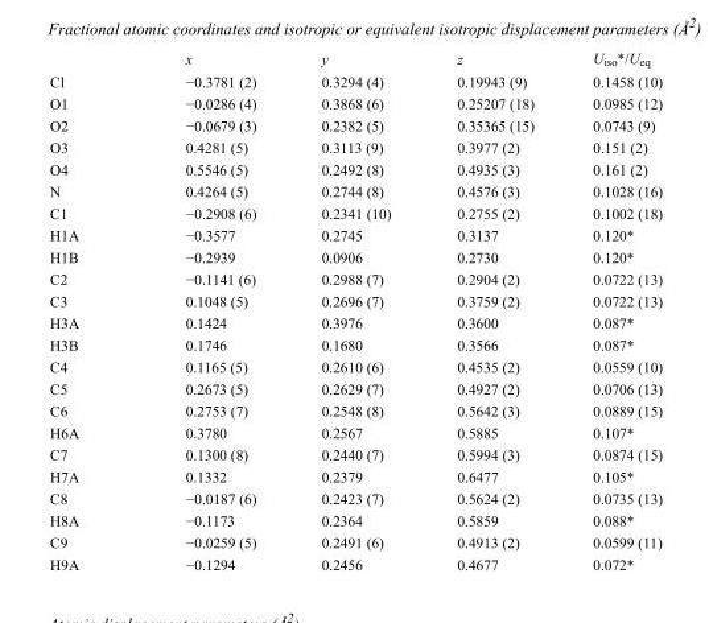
<table><thead><tr><td></td><td>x</td><td>y</td><td>z</td><td>U<sub>iso</sub>*/U<sub>eq</sub></td></tr></thead><tbody><tr><td>Cl</td><td>−0.3781 (2)</td><td>0.3294 (4)</td><td>0.19943 (9)</td><td>0.1458 (10)</td></tr><tr><td>O1</td><td>−0.0286 (4)</td><td>0.3868 (6)</td><td>0.25207 (18)</td><td>0.0985 (12)</td></tr><tr><td>O2</td><td>−0.0679 (3)</td><td>0.2382 (5)</td><td>0.35365 (15)</td><td>0.0743 (9)</td></tr><tr><td>O3</td><td>0.4281 (5)</td><td>0.3113 (9)</td><td>0.3977 (2)</td><td>0.151 (2)</td></tr><tr><td>O4</td><td>0.5546 (5)</td><td>0.2492 (8)</td><td>0.4935 (3)</td><td>0.161 (2)</td></tr><tr><td>N</td><td>0.4264 (5)</td><td>0.2744 (8)</td><td>0.4576 (3)</td><td>0.1028 (16)</td></tr><tr><td>C1</td><td>−0.2908 (6)</td><td>0.2341 (10)</td><td>0.2755 (2)</td><td>0.1002 (18)</td></tr><tr><td>H1A</td><td>−0.3577</td><td>0.2745</td><td>0.3137</td><td>0.120*</td></tr><tr><td>H1B</td><td>−0.2939</td><td>0.0906</td><td>0.2730</td><td>0.120*</td></tr><tr><td>C2</td><td>−0.1141 (6)</td><td>0.2988 (7)</td><td>0.2904 (2)</td><td>0.0722 (13)</td></tr><tr><td>C3</td><td>0.1048 (5)</td><td>0.2696 (7)</td><td>0.3759 (2)</td><td>0.0722 (13)</td></tr><tr><td>H3A</td><td>0.1424</td><td>0.3976</td><td>0.3600</td><td>0.087*</td></tr><tr><td>H3B</td><td>0.1746</td><td>0.1680</td><td>0.3566</td><td>0.087*</td></tr><tr><td>C4</td><td>0.1165 (5)</td><td>0.2610 (6)</td><td>0.4535 (2)</td><td>0.0559 (10)</td></tr><tr><td>C5</td><td>0.2673 (5)</td><td>0.2629 (7)</td><td>0.4927 (2)</td><td>0.0706 (13)</td></tr><tr><td>C6</td><td>0.2753 (7)</td><td>0.2548 (8)</td><td>0.5642 (3)</td><td>0.0889 (15)</td></tr><tr><td>H6A</td><td>0.3780</td><td>0.2567</td><td>0.5885</td><td>0.107*</td></tr><tr><td>C7</td><td>0.1300 (8)</td><td>0.2440 (7)</td><td>0.5994 (3)</td><td>0.0874 (15)</td></tr><tr><td>H7A</td><td>0.1332</td><td>0.2379</td><td>0.6477</td><td>0.105*</td></tr><tr><td>C8</td><td>−0.0187 (6)</td><td>0.2423 (7)</td><td>0.5624 (2)</td><td>0.0735 (13)</td></tr><tr><td>H8A</td><td>−0.1173</td><td>0.2364</td><td>0.5859</td><td>0.088*</td></tr><tr><td>C9</td><td>−0.0259 (5)</td><td>0.2491 (6)</td><td>0.4913 (2)</td><td>0.0599 (11)</td></tr><tr><td>H9A</td><td>−0.1294</td><td>0.2456</td><td>0.4677</td><td>0.072*</td></tr></tbody></table>